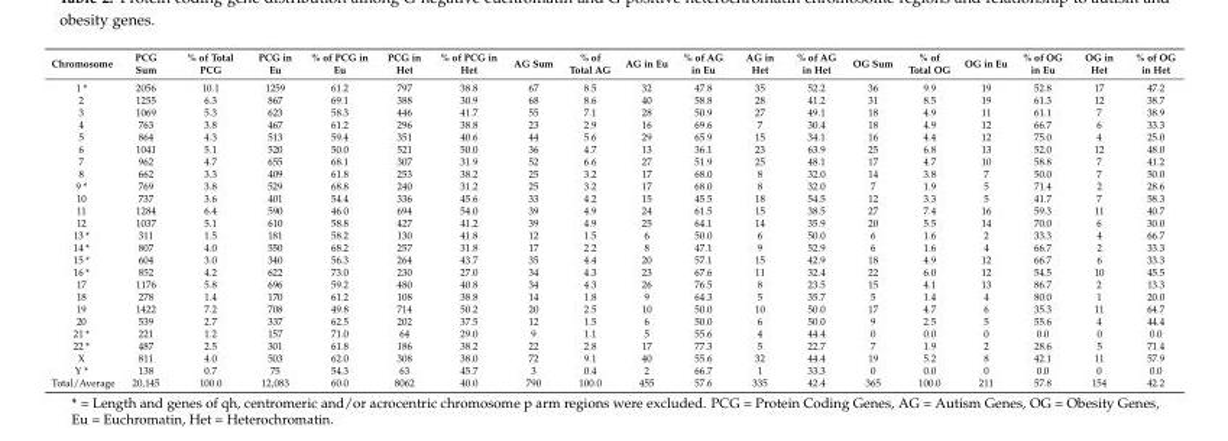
<table><thead><tr><td>Chromosome</td><td>PCG Sum</td><td>% of Total PCG</td><td>PCG in Eu</td><td>% of PCG in Eu</td><td>PCG in Het</td><td>% of PCG in Het</td><td>AG Sum</td><td>% of Total AG</td><td>AG in Eu</td><td>% of AG in Eu</td><td>AG in Het</td><td>% of AG in Het</td><td>OG Sum</td><td>% of Total OG</td><td>OG in Eu</td><td>% of OG in Eu</td><td>OG in Het</td><td>% of OG in Het</td></tr></thead><tbody><tr><td>1 *</td><td>2056</td><td>10.1</td><td>1259</td><td>61.2</td><td>797</td><td>38.8</td><td>67</td><td>8.5</td><td>32</td><td>47.8</td><td>35</td><td>52.2</td><td>36</td><td>9.9</td><td>19</td><td>52.8</td><td>17</td><td>47.2</td></tr><tr><td>2</td><td>1255</td><td>6.3</td><td>867</td><td>69.1</td><td>388</td><td>30.9</td><td>68</td><td>8.6</td><td>40</td><td>58.8</td><td>28</td><td>41.2</td><td>31</td><td>8.5</td><td>19</td><td>61.3</td><td>12</td><td>38.7</td></tr><tr><td>3</td><td>1069</td><td>5.3</td><td>623</td><td>58.3</td><td>446</td><td>41.7</td><td>55</td><td>7.1</td><td>28</td><td>50.9</td><td>27</td><td>49.1</td><td>18</td><td>4.9</td><td>11</td><td>61.1</td><td>7</td><td>38.9</td></tr><tr><td>4</td><td>763</td><td>3.8</td><td>467</td><td>61.2</td><td>296</td><td>38.8</td><td>23</td><td>2.9</td><td>16</td><td>69.6</td><td>7</td><td>30.4</td><td>18</td><td>4.9</td><td>12</td><td>66.7</td><td>6</td><td>33.3</td></tr><tr><td>5</td><td>864</td><td>4.3</td><td>513</td><td>59.4</td><td>351</td><td>40.6</td><td>44</td><td>5.6</td><td>29</td><td>65.9</td><td>15</td><td>34.1</td><td>16</td><td>4.4</td><td>12</td><td>75.0</td><td>4</td><td>25.0</td></tr><tr><td>6</td><td>1041</td><td>5.1</td><td>520</td><td>50.0</td><td>521</td><td>50.0</td><td>36</td><td>4.7</td><td>13</td><td>36.1</td><td>23</td><td>63.9</td><td>25</td><td>6.8</td><td>13</td><td>52.0</td><td>12</td><td>48.0</td></tr><tr><td>7</td><td>962</td><td>4.7</td><td>655</td><td>68.1</td><td>307</td><td>31.9</td><td>52</td><td>6.6</td><td>27</td><td>51.9</td><td>25</td><td>48.1</td><td>17</td><td>4.7</td><td>10</td><td>58.8</td><td>7</td><td>41.2</td></tr><tr><td>8</td><td>662</td><td>3.3</td><td>409</td><td>61.8</td><td>253</td><td>38.2</td><td>25</td><td>3.2</td><td>17</td><td>68.0</td><td>8</td><td>32.0</td><td>14</td><td>3.8</td><td>7</td><td>50.0</td><td>7</td><td>50.0</td></tr><tr><td>9 *</td><td>769</td><td>3.8</td><td>529</td><td>68.8</td><td>240</td><td>31.2</td><td>25</td><td>3.2</td><td>17</td><td>68.0</td><td>8</td><td>32.0</td><td>7</td><td>1.9</td><td>5</td><td>71.4</td><td>2</td><td>28.6</td></tr><tr><td>10</td><td>737</td><td>3.6</td><td>401</td><td>54.4</td><td>336</td><td>45.6</td><td>33</td><td>4.2</td><td>15</td><td>45.5</td><td>18</td><td>54.5</td><td>12</td><td>3.3</td><td>5</td><td>41.7</td><td>7</td><td>58.3</td></tr><tr><td>11</td><td>1284</td><td>6.4</td><td>590</td><td>46.0</td><td>694</td><td>54.0</td><td>39</td><td>4.9</td><td>24</td><td>61.5</td><td>15</td><td>38.5</td><td>27</td><td>7.4</td><td>16</td><td>59.3</td><td>11</td><td>40.7</td></tr><tr><td>12</td><td>1037</td><td>5.1</td><td>610</td><td>58.8</td><td>427</td><td>41.2</td><td>39</td><td>4.9</td><td>25</td><td>64.1</td><td>14</td><td>35.9</td><td>20</td><td>5.5</td><td>14</td><td>70.0</td><td>6</td><td>30.0</td></tr><tr><td>13 *</td><td>311</td><td>1.5</td><td>181</td><td>58.2</td><td>130</td><td>41.8</td><td>12</td><td>1.5</td><td>6</td><td>50.0</td><td>6</td><td>50.0</td><td>6</td><td>1.6</td><td>2</td><td>33.3</td><td>4</td><td>66.7</td></tr><tr><td>14 *</td><td>807</td><td>4.0</td><td>550</td><td>68.2</td><td>257</td><td>31.8</td><td>17</td><td>2.2</td><td>8</td><td>47.1</td><td>9</td><td>52.9</td><td>6</td><td>1.6</td><td>4</td><td>66.7</td><td>2</td><td>33.3</td></tr><tr><td>15 *</td><td>604</td><td>3.0</td><td>340</td><td>56.3</td><td>264</td><td>43.7</td><td>35</td><td>4.4</td><td>20</td><td>57.1</td><td>15</td><td>42.9</td><td>18</td><td>4.9</td><td>12</td><td>66.7</td><td>6</td><td>33.3</td></tr><tr><td>16 *</td><td>852</td><td>4.2</td><td>622</td><td>73.0</td><td>230</td><td>27.0</td><td>34</td><td>4.3</td><td>23</td><td>67.6</td><td>11</td><td>32.4</td><td>22</td><td>6.0</td><td>12</td><td>54.5</td><td>10</td><td>45.5</td></tr><tr><td>17</td><td>1176</td><td>5.8</td><td>696</td><td>59.2</td><td>480</td><td>40.8</td><td>34</td><td>4.3</td><td>26</td><td>76.5</td><td>8</td><td>23.5</td><td>15</td><td>4.1</td><td>13</td><td>86.7</td><td>2</td><td>13.3</td></tr><tr><td>18</td><td>278</td><td>1.4</td><td>170</td><td>61.2</td><td>108</td><td>38.8</td><td>14</td><td>1.8</td><td>9</td><td>64.3</td><td>5</td><td>35.7</td><td>5</td><td>1.4</td><td>4</td><td>80.0</td><td>1</td><td>20.0</td></tr><tr><td>19</td><td>1422</td><td>7.2</td><td>708</td><td>49.8</td><td>714</td><td>50.2</td><td>20</td><td>2.5</td><td>10</td><td>50.0</td><td>10</td><td>50.0</td><td>17</td><td>4.7</td><td>6</td><td>35.3</td><td>11</td><td>64.7</td></tr><tr><td>20</td><td>539</td><td>2.7</td><td>337</td><td>62.5</td><td>202</td><td>37.5</td><td>12</td><td>1.5</td><td>6</td><td>50.0</td><td>6</td><td>50.0</td><td>9</td><td>2.5</td><td>5</td><td>55.6</td><td>4</td><td>44.4</td></tr><tr><td>21 *</td><td>221</td><td>1.2</td><td>157</td><td>71.0</td><td>64</td><td>29.0</td><td>9</td><td>1.1</td><td>5</td><td>55.6</td><td>4</td><td>44.4</td><td>0</td><td>0.0</td><td>0</td><td>0.0</td><td>0</td><td>0.0</td></tr><tr><td>22 *</td><td>487</td><td>2.5</td><td>301</td><td>61.8</td><td>186</td><td>38.2</td><td>22</td><td>2.8</td><td>17</td><td>77.3</td><td>5</td><td>22.7</td><td>7</td><td>1.9</td><td>2</td><td>28.6</td><td>5</td><td>71.4</td></tr><tr><td>X</td><td>811</td><td>4.0</td><td>503</td><td>62.0</td><td>308</td><td>38.0</td><td>72</td><td>9.1</td><td>40</td><td>55.6</td><td>32</td><td>44.4</td><td>19</td><td>5.2</td><td>8</td><td>42.1</td><td>11</td><td>57.9</td></tr><tr><td>Y *</td><td>138</td><td>0.7</td><td>75</td><td>54.3</td><td>63</td><td>45.7</td><td>3</td><td>0.4</td><td>2</td><td>66.7</td><td>1</td><td>33.3</td><td>0</td><td>0.0</td><td>0</td><td>0.0</td><td>0</td><td>0.0</td></tr><tr><td>Total/Average</td><td>20,145</td><td>100.0</td><td>12,083</td><td>60.0</td><td>8062</td><td>40.0</td><td>790</td><td>100.0</td><td>455</td><td>57.6</td><td>335</td><td>42.4</td><td>365</td><td>100.0</td><td>211</td><td>57.8</td><td>154</td><td>42.2</td></tr></tbody></table>